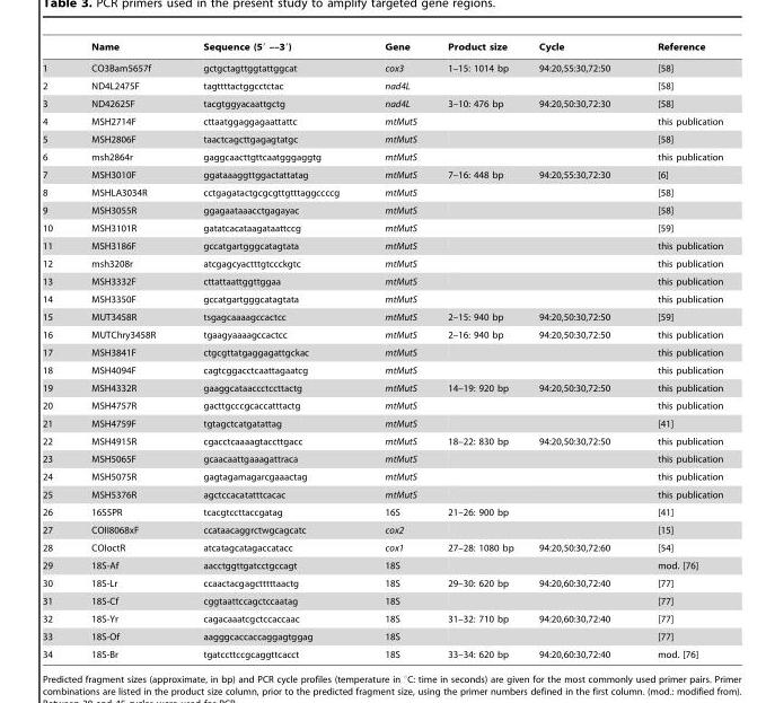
<table><thead><tr><td></td><td>Name</td><td>Sequence (5′ ––3′)</td><td>Gene</td><td>Product size</td><td>Cycle</td><td>Reference</td></tr></thead><tbody><tr><td>1</td><td>CO3Bam5657f</td><td>gctgctagttggtattggcat</td><td>cox3</td><td>1–15: 1014 bp</td><td>94:20,55:30,72:50</td><td>[58]</td></tr><tr><td>2</td><td>ND4L2475F</td><td>tagttttactggcctctac</td><td>nad4L</td><td></td><td></td><td>[58]</td></tr><tr><td>3</td><td>ND42625F</td><td>tacgtggyacaattgctg</td><td>nad4L</td><td>3–10: 476 bp</td><td>94:20,50:30,72:30</td><td>[58]</td></tr><tr><td>4</td><td>MSH2714F</td><td>cttaatggaggagaattattc</td><td>mtMutS</td><td></td><td></td><td>this publication</td></tr><tr><td>5</td><td>MSH2806F</td><td>taactcagcttgagagtatgc</td><td>mtMutS</td><td></td><td></td><td>[58]</td></tr><tr><td>6</td><td>msh2864r</td><td>gaggcaacttgttcaatgggaggtg</td><td>mtMutS</td><td></td><td></td><td>this publication</td></tr><tr><td>7</td><td>MSH3010F</td><td>ggataaaggttggactattatag</td><td>mtMutS</td><td>7–16: 448 bp</td><td>94:20,55:30,72:30</td><td>[6]</td></tr><tr><td>8</td><td>MSHLA3034R</td><td>cctgagatactgcgcgttgtttaggccccg</td><td>mtMutS</td><td></td><td></td><td>[58]</td></tr><tr><td>9</td><td>MSH3055R</td><td>ggagaataaacctgagayac</td><td>mtMutS</td><td></td><td></td><td>[58]</td></tr><tr><td>10</td><td>MSH3101R</td><td>gatatcacataagataattccg</td><td>mtMutS</td><td></td><td></td><td>[59]</td></tr><tr><td>11</td><td>MSH3186F</td><td>gccatgartgggcatagtata</td><td>mtMutS</td><td></td><td></td><td>this publication</td></tr><tr><td>12</td><td>msh3208r</td><td>atcgagcyactttgtccckgtc</td><td>mtMutS</td><td></td><td></td><td>this publication</td></tr><tr><td>13</td><td>MSH3332F</td><td>cttattaattggttggaa</td><td>mtMutS</td><td></td><td></td><td>this publication</td></tr><tr><td>14</td><td>MSH3350F</td><td>gccatgartgggcatagtata</td><td>mtMutS</td><td></td><td></td><td>this publication</td></tr><tr><td>15</td><td>MUT3458R</td><td>tsgagcaaaagccactcc</td><td>mtMutS</td><td>2–15: 940 bp</td><td>94:20,50:30,72:50</td><td>[59]</td></tr><tr><td>16</td><td>MUTChry3458R</td><td>tgaagyaaaagccactcc</td><td>mtMutS</td><td>2–16: 940 bp</td><td>94:20,50:30,72:50</td><td>this publication</td></tr><tr><td>17</td><td>MSH3841F</td><td>ctgcgttatgaggagattgckac</td><td>mtMutS</td><td></td><td></td><td>this publication</td></tr><tr><td>18</td><td>MSH4094F</td><td>cagtcggacctcaattagaatcg</td><td>mtMutS</td><td></td><td></td><td>this publication</td></tr><tr><td>19</td><td>MSH4332R</td><td>gaaggcataaccctccttactg</td><td>mtMutS</td><td>14–19: 920 bp</td><td>94:20,50:30,72:50</td><td>this publication</td></tr><tr><td>20</td><td>MSH4757R</td><td>gacttgcccgcaccatttactg</td><td>mtMutS</td><td></td><td></td><td>this publication</td></tr><tr><td>21</td><td>MSH4759F</td><td>tgtagctcatgatattag</td><td>mtMutS</td><td></td><td></td><td>[41]</td></tr><tr><td>22</td><td>MSH4915R</td><td>cgacctcaaaagtaccttgacc</td><td>mtMutS</td><td>18–22: 830 bp</td><td>94:20,50:30,72:50</td><td>this publication</td></tr><tr><td>23</td><td>MSH5065F</td><td>gcaacaattgaaagattraca</td><td>mtMutS</td><td></td><td></td><td>this publication</td></tr><tr><td>24</td><td>MSH5075R</td><td>gagtagamagarcgaaactag</td><td>mtMutS</td><td></td><td></td><td>this publication</td></tr><tr><td>25</td><td>MSH5376R</td><td>agctccacatatttcacac</td><td>mtMutS</td><td></td><td></td><td>this publication</td></tr><tr><td>26</td><td>16S5PR</td><td>tcacgtccttaccgatag</td><td>16S</td><td>21–26: 900 bp</td><td></td><td>[41]</td></tr><tr><td>27</td><td>COII8068xF</td><td>ccataacaggrctwgcagcatc</td><td>cox2</td><td></td><td></td><td>[15]</td></tr><tr><td>28</td><td>COIoctR</td><td>atcatagcatagaccatacc</td><td>cox1</td><td>27–28: 1080 bp</td><td>94:20,50:30,72:60</td><td>[54]</td></tr><tr><td>29</td><td>18S-Af</td><td>aacctggttgatcctgccagt</td><td>18S</td><td></td><td></td><td>mod. [76]</td></tr><tr><td>30</td><td>18S-Lr</td><td>ccaactacgagctttttaactg</td><td>18S</td><td>29–30: 620 bp</td><td>94:20,60:30,72:40</td><td>[77]</td></tr><tr><td>31</td><td>18S-Cf</td><td>cggtaattccagctccaatag</td><td>18S</td><td></td><td></td><td>[77]</td></tr><tr><td>32</td><td>18S-Yr</td><td>cagacaaatcgctccaccaac</td><td>18S</td><td>31–32: 710 bp</td><td>94:20,60:30,72:40</td><td>[77]</td></tr><tr><td>33</td><td>18S-Of</td><td>aagggcaccaccaggagtggag</td><td>18S</td><td></td><td></td><td>[77]</td></tr><tr><td>34</td><td>18S-Br</td><td>tgatccttccgcaggttcacct</td><td>18S</td><td>33–34: 620 bp</td><td>94:20,60:30,72:40</td><td>mod. [76]</td></tr></tbody></table>